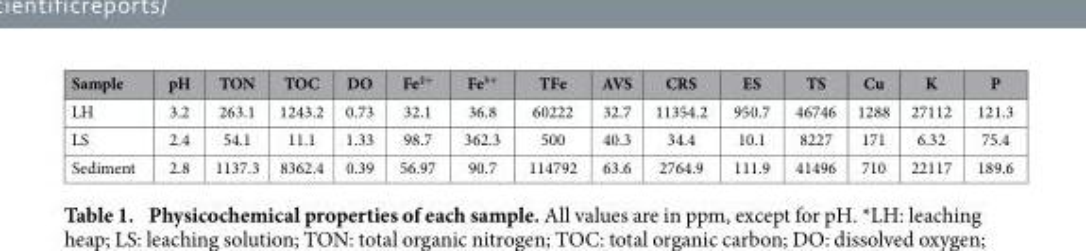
<table><thead><tr><td>Sample</td><td>pH</td><td>TON</td><td>TOC</td><td>DO</td><td>Fe<sup>2+</sup></td><td>Fe<sup>3+</sup></td><td>TFe</td><td>AVS</td><td>CRS</td><td>ES</td><td>TS</td><td>Cu</td><td>K</td><td>P</td></tr></thead><tbody><tr><td>LH</td><td>3.2</td><td>263.1</td><td>1243.2</td><td>0.73</td><td>32.1</td><td>36.8</td><td>60222</td><td>32.7</td><td>11354.2</td><td>950.7</td><td>46746</td><td>1288</td><td>27112</td><td>121.3</td></tr><tr><td>LS</td><td>2.4</td><td>54.1</td><td>11.1</td><td>1.33</td><td>98.7</td><td>362.3</td><td>500</td><td>40.3</td><td>34.4</td><td>10.1</td><td>8227</td><td>171</td><td>6.32</td><td>75.4</td></tr><tr><td>Sediment</td><td>2.8</td><td>1137.3</td><td>8362.4</td><td>0.39</td><td>56.97</td><td>90.7</td><td>114792</td><td>63.6</td><td>2764.9</td><td>111.9</td><td>41496</td><td>710</td><td>22117</td><td>189.6</td></tr></tbody></table>